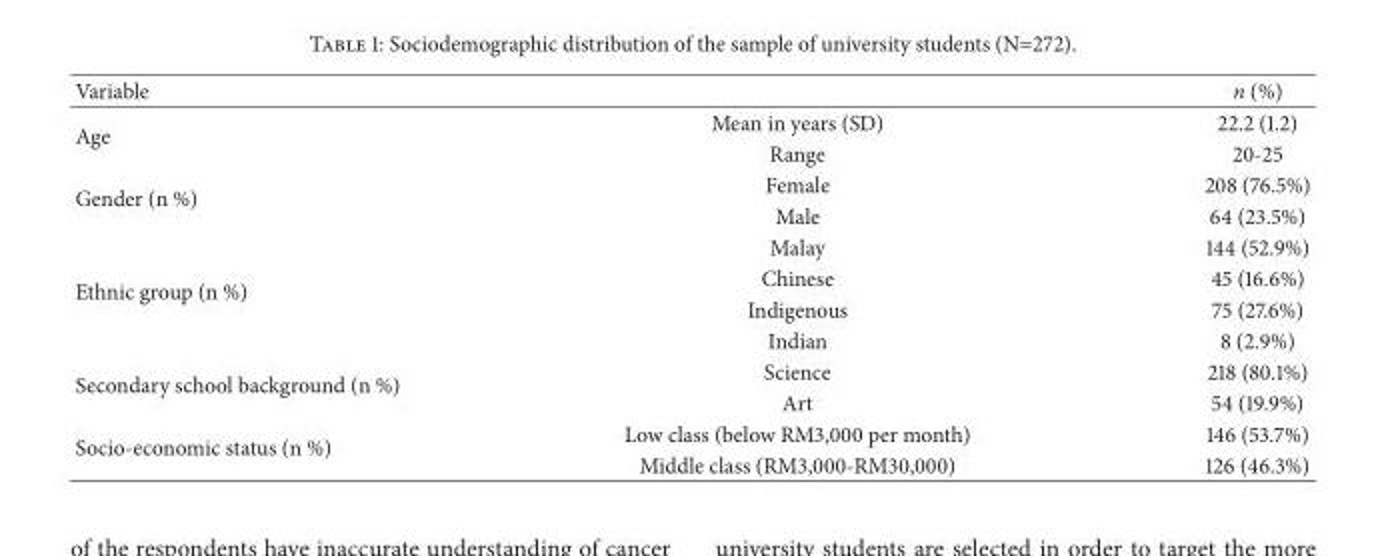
<table><thead><tr><td>Variable</td><td></td><td>n (%)</td></tr></thead><tbody><tr><td rowspan="2">Age</td><td>Mean in years (SD)</td><td>22.2 (1.2)</td></tr><tr><td>Range</td><td>20-25</td></tr><tr><td rowspan="2">Gender (n %)</td><td>Female</td><td>208 (76.5%)</td></tr><tr><td>Male</td><td>64 (23.5%)</td></tr><tr><td rowspan="4">Ethnic group (n %)</td><td>Malay</td><td>144 (52.9%)</td></tr><tr><td>Chinese</td><td>45 (16.6%)</td></tr><tr><td>Indigenous</td><td>75 (27.6%)</td></tr><tr><td>Indian</td><td>8 (2.9%)</td></tr><tr><td rowspan="2">Secondary school background (n %)</td><td>Science</td><td>218 (80.1%)</td></tr><tr><td>Art</td><td>54 (19.9%)</td></tr><tr><td rowspan="2">Socio-economic status (n %)</td><td>Low class (below RM3,000 per month)</td><td>146 (53.7%)</td></tr><tr><td>Middle class (RM3,000-RM30,000)</td><td>126 (46.3%)</td></tr></tbody></table>